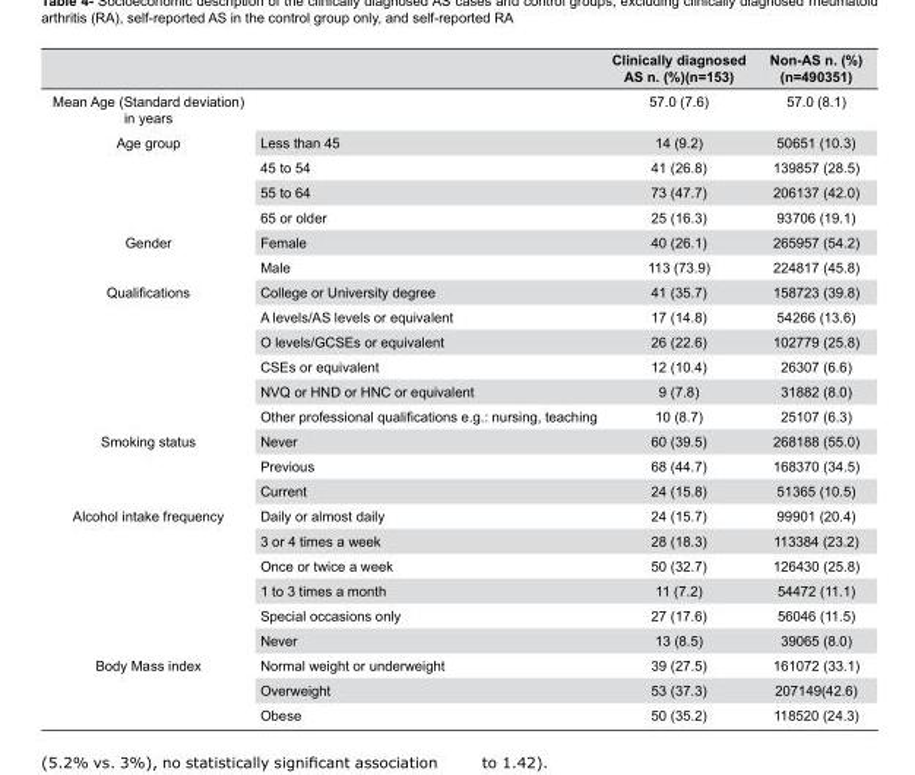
<table><thead><tr><td></td><td></td><td>Clinically diagnosed AS n. (%)(n=153)</td><td>Non-AS n. (%) (n=490351)</td></tr></thead><tbody><tr><td>Mean Age (Standard deviation) in years</td><td></td><td>57.0 (7.6)</td><td>57.0 (8.1)</td></tr><tr><td rowspan="4">Age group</td><td>Less than 45</td><td>14 (9.2)</td><td>50651 (10.3)</td></tr><tr><td>45 to 54</td><td>41 (26.8)</td><td>139857 (28.5)</td></tr><tr><td>55 to 64</td><td>73 (47.7)</td><td>206137 (42.0)</td></tr><tr><td>65 or older</td><td>25 (16.3)</td><td>93706 (19.1)</td></tr><tr><td rowspan="2">Gender</td><td>Female</td><td>40 (26.1)</td><td>265957 (54.2)</td></tr><tr><td>Male</td><td>113 (73.9)</td><td>224817 (45.8)</td></tr><tr><td rowspan="6">Qualifications</td><td>College or University degree</td><td>41 (35.7)</td><td>158723 (39.8)</td></tr><tr><td>A levels/AS levels or equivalent</td><td>17 (14.8)</td><td>54266 (13.6)</td></tr><tr><td>O levels/GCSEs or equivalent</td><td>26 (22.6)</td><td>102779 (25.8)</td></tr><tr><td>CSEs or equivalent</td><td>12 (10.4)</td><td>26307 (6.6)</td></tr><tr><td>NVQ or HND or HNC or equivalent</td><td>9 (7.8)</td><td>31882 (8.0)</td></tr><tr><td>Other professional qualifications e.g.: nursing, teaching</td><td>10 (8.7)</td><td>25107 (6.3)</td></tr><tr><td rowspan="3">Smoking status</td><td>Never</td><td>60 (39.5)</td><td>268188 (55.0)</td></tr><tr><td>Previous</td><td>68 (44.7)</td><td>168370 (34.5)</td></tr><tr><td>Current</td><td>24 (15.8)</td><td>51365 (10.5)</td></tr><tr><td rowspan="6">Alcohol intake frequency</td><td>Daily or almost daily</td><td>24 (15.7)</td><td>99901 (20.4)</td></tr><tr><td>3 or 4 times a week</td><td>28 (18.3)</td><td>113384 (23.2)</td></tr><tr><td>Once or twice a week</td><td>50 (32.7)</td><td>126430 (25.8)</td></tr><tr><td>1 to 3 times a month</td><td>11 (7.2)</td><td>54472 (11.1)</td></tr><tr><td>Special occasions only</td><td>27 (17.6)</td><td>56046 (11.5)</td></tr><tr><td>Never</td><td>13 (8.5)</td><td>39065 (8.0)</td></tr><tr><td rowspan="3">Body Mass index</td><td>Normal weight or underweight</td><td>39 (27.5)</td><td>161072 (33.1)</td></tr><tr><td>Overweight</td><td>53 (37.3)</td><td>207149(42.6)</td></tr><tr><td>Obese</td><td>50 (35.2)</td><td>118520 (24.3)</td></tr></tbody></table>